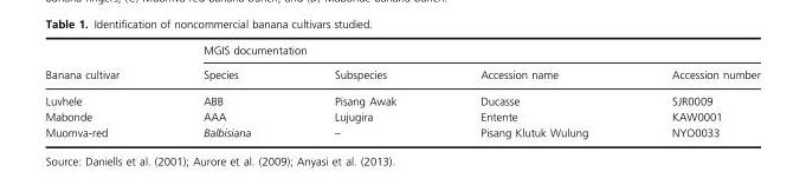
<table><thead><tr><td rowspan="2">Banana cultivar</td><td colspan="4">MGIS documentation</td></tr><tr><td>Species</td><td>Subspecies</td><td>Accession name</td><td>Accession number</td></tr></thead><tbody><tr><td>Luvhele</td><td>ABB</td><td>Pisang Awak</td><td>Ducasse</td><td>SJR0009</td></tr><tr><td>Mabonde</td><td>AAA</td><td>Lujugira</td><td>Entente</td><td>KAW0001</td></tr><tr><td>Muomva-red</td><td>Balbisiana</td><td>–</td><td>Pisang Klutuk Wulung</td><td>NYO0033</td></tr></tbody></table>